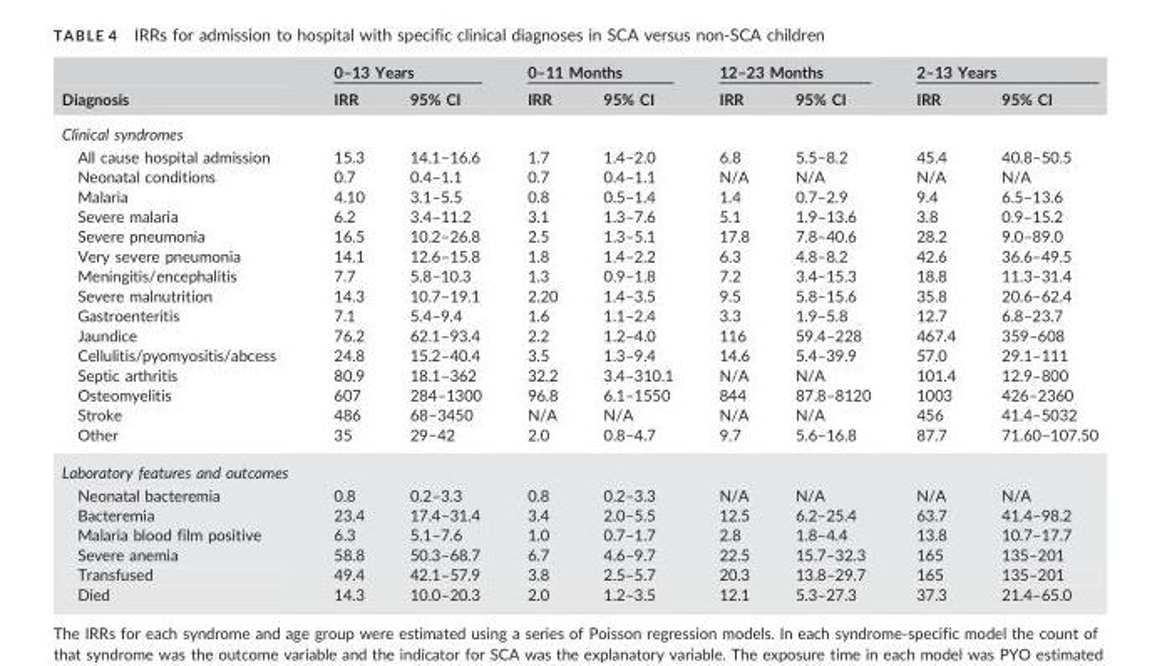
<table><thead><tr><td rowspan="2">Diagnosis</td><td colspan="2">0–13 Years</td><td colspan="2">0–11 Months</td><td colspan="2">12–23 Months</td><td colspan="2">2–13 Years</td></tr><tr><td>IRR</td><td>95% CI</td><td>IRR</td><td>95% CI</td><td>IRR</td><td>95% CI</td><td>IRR</td><td>95% CI</td></tr></thead><tbody><tr><td colspan="9">Clinical syndromes</td></tr><tr><td>All cause hospital admission</td><td>15.3</td><td>14.1–16.6</td><td>1.7</td><td>1.4–2.0</td><td>6.8</td><td>5.5–8.2</td><td>45.4</td><td>40.8–50.5</td></tr><tr><td>Neonatal conditions</td><td>0.7</td><td>0.4–1.1</td><td>0.7</td><td>0.4–1.1</td><td>N/A</td><td>N/A</td><td>N/A</td><td>N/A</td></tr><tr><td>Malaria</td><td>4.10</td><td>3.1–5.5</td><td>0.8</td><td>0.5–1.4</td><td>1.4</td><td>0.7–2.9</td><td>9.4</td><td>6.5–13.6</td></tr><tr><td>Severe malaria</td><td>6.2</td><td>3.4–11.2</td><td>3.1</td><td>1.3–7.6</td><td>5.1</td><td>1.9–13.6</td><td>3.8</td><td>0.9–15.2</td></tr><tr><td>Severe pneumonia</td><td>16.5</td><td>10.2–26.8</td><td>2.5</td><td>1.3–5.1</td><td>17.8</td><td>7.8–40.6</td><td>28.2</td><td>9.0–89.0</td></tr><tr><td>Very severe pneumonia</td><td>14.1</td><td>12.6–15.8</td><td>1.8</td><td>1.4–2.2</td><td>6.3</td><td>4.8–8.2</td><td>42.6</td><td>36.6–49.5</td></tr><tr><td>Meningitis/encephalitis</td><td>7.7</td><td>5.8–10.3</td><td>1.3</td><td>0.9–1.8</td><td>7.2</td><td>3.4–15.3</td><td>18.8</td><td>11.3–31.4</td></tr><tr><td>Severe malnutrition</td><td>14.3</td><td>10.7–19.1</td><td>2.20</td><td>1.4–3.5</td><td>9.5</td><td>5.8–15.6</td><td>35.8</td><td>20.6–62.4</td></tr><tr><td>Gastroenteritis</td><td>7.1</td><td>5.4–9.4</td><td>1.6</td><td>1.1–2.4</td><td>3.3</td><td>1.9–5.8</td><td>12.7</td><td>6.8–23.7</td></tr><tr><td>Jaundice</td><td>76.2</td><td>62.1–93.4</td><td>2.2</td><td>1.2–4.0</td><td>116</td><td>59.4–228</td><td>467.4</td><td>359–608</td></tr><tr><td>Cellulitis/pyomyositis/abcess</td><td>24.8</td><td>15.2–40.4</td><td>3.5</td><td>1.3–9.4</td><td>14.6</td><td>5.4–39.9</td><td>57.0</td><td>29.1–111</td></tr><tr><td>Septic arthritis</td><td>80.9</td><td>18.1–362</td><td>32.2</td><td>3.4–310.1</td><td>N/A</td><td>N/A</td><td>101.4</td><td>12.9–800</td></tr><tr><td>Osteomyelitis</td><td>607</td><td>284–1300</td><td>96.8</td><td>6.1–1550</td><td>844</td><td>87.8–8120</td><td>1003</td><td>426–2360</td></tr><tr><td>Stroke</td><td>486</td><td>68–3450</td><td>N/A</td><td>N/A</td><td>N/A</td><td>N/A</td><td>456</td><td>41.4–5032</td></tr><tr><td>Other</td><td>35</td><td>29–42</td><td>2.0</td><td>0.8–4.7</td><td>9.7</td><td>5.6–16.8</td><td>87.7</td><td>71.60–107.50</td></tr><tr><td colspan="9">Laboratory features and outcomes</td></tr><tr><td>Neonatal bacteremia</td><td>0.8</td><td>0.2–3.3</td><td>0.8</td><td>0.2–3.3</td><td>N/A</td><td>N/A</td><td>N/A</td><td>N/A</td></tr><tr><td>Bacteremia</td><td>23.4</td><td>17.4–31.4</td><td>3.4</td><td>2.0–5.5</td><td>12.5</td><td>6.2–25.4</td><td>63.7</td><td>41.4–98.2</td></tr><tr><td>Malaria blood film positive</td><td>6.3</td><td>5.1–7.6</td><td>1.0</td><td>0.7–1.7</td><td>2.8</td><td>1.8–4.4</td><td>13.8</td><td>10.7–17.7</td></tr><tr><td>Severe anemia</td><td>58.8</td><td>50.3–68.7</td><td>6.7</td><td>4.6–9.7</td><td>22.5</td><td>15.7–32.3</td><td>165</td><td>135–201</td></tr><tr><td>Transfused</td><td>49.4</td><td>42.1–57.9</td><td>3.8</td><td>2.5–5.7</td><td>20.3</td><td>13.8–29.7</td><td>165</td><td>135–201</td></tr><tr><td>Died</td><td>14.3</td><td>10.0–20.3</td><td>2.0</td><td>1.2–3.5</td><td>12.1</td><td>5.3–27.3</td><td>37.3</td><td>21.4–65.0</td></tr></tbody></table>